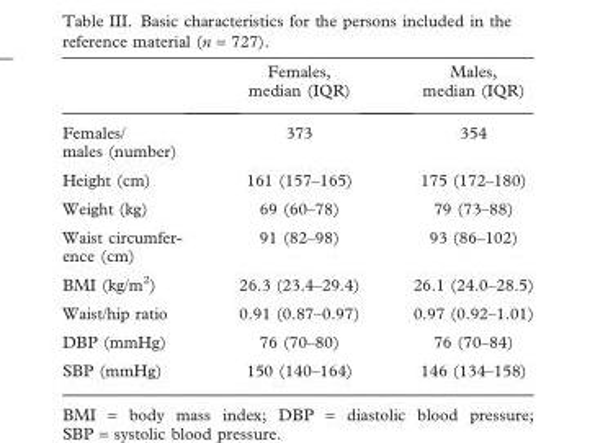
<table><thead><tr><td></td><td>Females, median (IQR)</td><td>Males, median (IQR)</td></tr></thead><tbody><tr><td>Females/ males (number)</td><td>373</td><td>354</td></tr><tr><td>Height (cm)</td><td>161 (157–165)</td><td>175 (172–180)</td></tr><tr><td>Weight (kg)</td><td>69 (60–78)</td><td>79 (73–88)</td></tr><tr><td>Waist circumfer- ence (cm)</td><td>91 (82–98)</td><td>93 (86–102)</td></tr><tr><td>BMI (kg/m<sup>2</sup>)</td><td>26.3 (23.4–29.4)</td><td>26.1 (24.0–28.5)</td></tr><tr><td>Waist/hip ratio</td><td>0.91 (0.87–0.97)</td><td>0.97 (0.92–1.01)</td></tr><tr><td>DBP (mmHg)</td><td>76 (70–80)</td><td>76 (70–84)</td></tr><tr><td>SBP (mmHg)</td><td>150 (140–164)</td><td>146 (134–158)</td></tr></tbody></table>